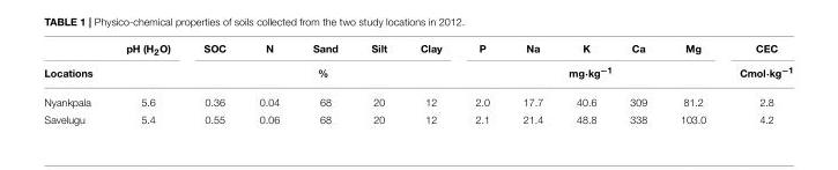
<table><thead><tr><td rowspan="2">Locations</td><td rowspan="2">pH (H<sub>2</sub>O)</td><td>SOC</td><td>N</td><td>Sand</td><td>Silt</td><td>Clay</td><td>P</td><td>Na</td><td>K</td><td>Ca</td><td>Mg</td><td rowspan="2">CEC Cmol·kg<sup>−1</sup></td></tr><tr><td colspan="5">%</td><td colspan="5">mg·kg<sup>−1</sup></td></tr></thead><tbody><tr><td>Nyankpala</td><td>5.6</td><td>0.36</td><td>0.04</td><td>68</td><td>20</td><td>12</td><td>2.0</td><td>17.7</td><td>40.6</td><td>309</td><td>81.2</td><td>2.8</td></tr><tr><td>Savelugu</td><td>5.4</td><td>0.55</td><td>0.06</td><td>68</td><td>20</td><td>12</td><td>2.1</td><td>21.4</td><td>48.8</td><td>338</td><td>103.0</td><td>4.2</td></tr></tbody></table>